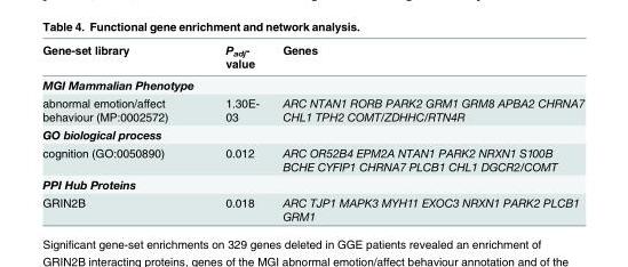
<table><thead><tr><td>Gene-set library</td><td>P<sub>adj</sub>- value</td><td>Genes</td></tr></thead><tbody><tr><td colspan="3">MGI Mammalian Phenotype</td></tr><tr><td>abnormal emotion/affect behaviour (MP:0002572)</td><td>1.30E- 03</td><td>ARC NTAN1 RORB PARK2 GRM1 GRM8 APBA2 CHRNA7 CHL1 TPH2 COMT/ZDHHC/RTN4R</td></tr><tr><td colspan="3">GO biological process</td></tr><tr><td>cognition (GO:0050890)</td><td>0.012</td><td>ARC OR52B4 EPM2A NTAN1 PARK2 NRXN1 S100B BCHE CYFIP1 CHRNA7 PLCB1 CHL1 DGCR2/COMT</td></tr><tr><td colspan="3">PPI Hub Proteins</td></tr><tr><td>GRIN2B</td><td>0.018</td><td>ARC TJP1 MAPK3 MYH11 EXOC3 NRXN1 PARK2 PLCB1 GRM1</td></tr></tbody></table>